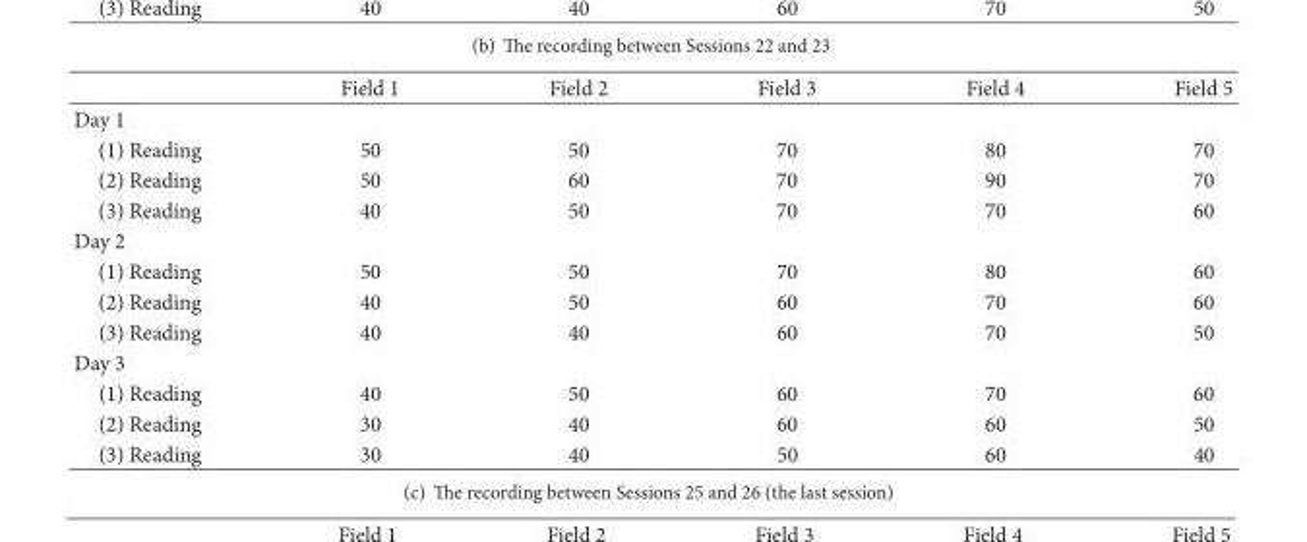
<table><thead><tr><td></td><td>Field 1</td><td>Field 2</td><td>Field 3</td><td>Field 4</td><td>Field 5</td></tr></thead><tbody><tr><td colspan="6">Day 1</td></tr><tr><td>(1) Reading</td><td>50</td><td>50</td><td>70</td><td>80</td><td>70</td></tr><tr><td>(2) Reading</td><td>50</td><td>60</td><td>70</td><td>90</td><td>70</td></tr><tr><td>(3) Reading</td><td>40</td><td>50</td><td>70</td><td>70</td><td>60</td></tr><tr><td colspan="6">Day 2</td></tr><tr><td>(1) Reading</td><td>50</td><td>50</td><td>70</td><td>80</td><td>60</td></tr><tr><td>(2) Reading</td><td>40</td><td>50</td><td>60</td><td>70</td><td>60</td></tr><tr><td>(3) Reading</td><td>40</td><td>40</td><td>60</td><td>70</td><td>50</td></tr><tr><td colspan="6">Day 3</td></tr><tr><td>(1) Reading</td><td>40</td><td>50</td><td>60</td><td>70</td><td>60</td></tr><tr><td>(2) Reading</td><td>30</td><td>40</td><td>60</td><td>60</td><td>50</td></tr><tr><td>(3) Reading</td><td>30</td><td>40</td><td>50</td><td>60</td><td>40</td></tr></tbody></table>